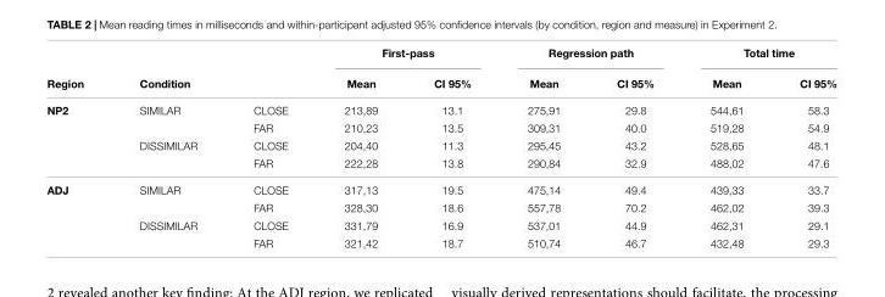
<table><thead><tr><td rowspan="2">Region</td><td></td><td></td><td colspan="2">First-pass</td><td colspan="2">Regression path</td><td colspan="2">Total time</td></tr><tr><td colspan="2">Condition</td><td>Mean</td><td>CI 95%</td><td>Mean</td><td>CI 95%</td><td>Mean</td><td>CI 95%</td></tr></thead><tbody><tr><td rowspan="4">NP2</td><td>SIMILAR</td><td>CLOSE</td><td>213,89</td><td>13.1</td><td>275,91</td><td>29.8</td><td>544,61</td><td>58.3</td></tr><tr><td></td><td>FAR</td><td>210,23</td><td>13.5</td><td>309,31</td><td>40.0</td><td>519,28</td><td>54.9</td></tr><tr><td>DISSIMILAR</td><td>CLOSE</td><td>204,40</td><td>11.3</td><td>295,45</td><td>43.2</td><td>528,65</td><td>48.1</td></tr><tr><td></td><td>FAR</td><td>222,28</td><td>13.8</td><td>290,84</td><td>32.9</td><td>488,02</td><td>47.6</td></tr><tr><td rowspan="4">ADJ</td><td>SIMILAR</td><td>CLOSE</td><td>317,13</td><td>19.5</td><td>475,14</td><td>49.4</td><td>439,33</td><td>33.7</td></tr><tr><td></td><td>FAR</td><td>328,30</td><td>18.6</td><td>557,78</td><td>70.2</td><td>462,02</td><td>39.3</td></tr><tr><td>DISSIMILAR</td><td>CLOSE</td><td>331,79</td><td>16.9</td><td>537,01</td><td>44.9</td><td>462,31</td><td>29.1</td></tr><tr><td></td><td>FAR</td><td>321,42</td><td>18.7</td><td>510,74</td><td>46.7</td><td>432,48</td><td>29.3</td></tr></tbody></table>